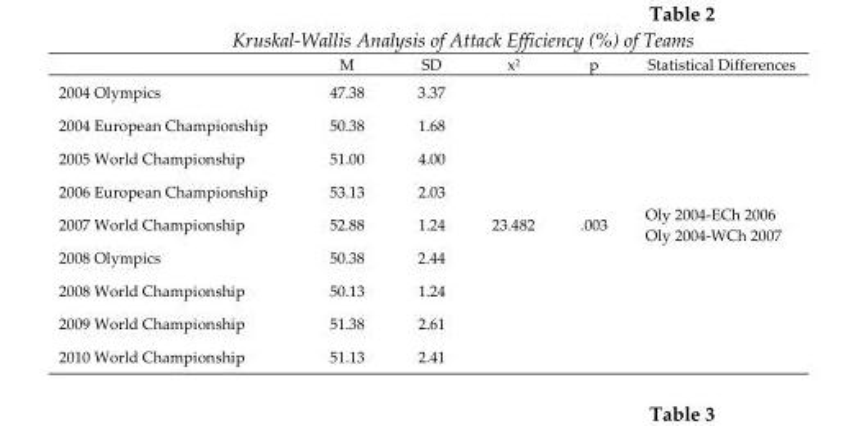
<table><thead><tr><td></td><td>M</td><td>SD</td><td>x<sup>2</sup></td><td>p</td><td>Statistical Differences</td></tr></thead><tbody><tr><td>2004 Olympics</td><td>47.38</td><td>3.37</td><td rowspan="9">23.482</td><td rowspan="9">.003</td><td rowspan="9">Oly 2004-ECh 2006 Oly 2004-WCh 2007</td></tr><tr><td>2004 European Championship</td><td>50.38</td><td>1.68</td></tr><tr><td>2005 World Championship</td><td>51.00</td><td>4.00</td></tr><tr><td>2006 European Championship</td><td>53.13</td><td>2.03</td></tr><tr><td>2007 World Championship</td><td>52.88</td><td>1.24</td></tr><tr><td>2008 Olympics</td><td>50.38</td><td>2.44</td></tr><tr><td>2008 World Championship</td><td>50.13</td><td>1.24</td></tr><tr><td>2009 World Championship</td><td>51.38</td><td>2.61</td></tr><tr><td>2010 World Championship</td><td>51.13</td><td>2.41</td></tr></tbody></table>